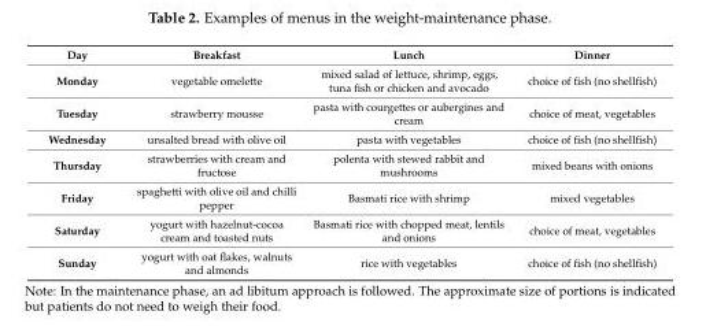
<table><thead><tr><td>Day</td><td>Breakfast</td><td>Lunch</td><td>Dinner</td></tr></thead><tbody><tr><td>Monday</td><td>vegetable omelette</td><td>mixed salad of lettuce, shrimp, eggs, tuna fish or chicken and avocado</td><td>choice of fish (no shellfish)</td></tr><tr><td>Tuesday</td><td>strawberry mousse</td><td>pasta with courgettes or aubergines and cream</td><td>choice of meat, vegetables</td></tr><tr><td>Wednesday</td><td>unsalted bread with olive oil</td><td>pasta with vegetables</td><td>choice of fish (no shellfish)</td></tr><tr><td>Thursday</td><td>strawberries with cream and fructose</td><td>polenta with stewed rabbit and mushrooms</td><td>mixed beans with onions</td></tr><tr><td>Friday</td><td>spaghetti with olive oil and chilli pepper</td><td>Basmati rice with shrimp</td><td>mixed vegetables</td></tr><tr><td>Saturday</td><td>yogurt with hazelnut-cocoa cream and toasted nuts</td><td>Basmati rice with chopped meat, lentils and onions</td><td>choice of meat, vegetables</td></tr><tr><td>Sunday</td><td>yogurt with oat flakes, walnuts and almonds</td><td>rice with vegetables</td><td>choice of fish (no shellfish)</td></tr></tbody></table>